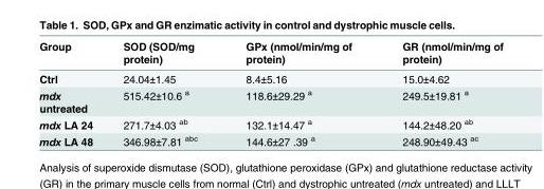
<table><thead><tr><td>Group</td><td>SOD (SOD/mg protein)</td><td>GPx (nmol/min/mg of protein)</td><td>GR (nmol/min/mg of protein)</td></tr></thead><tbody><tr><td>Ctrl</td><td>24.04±1.45</td><td>8.4±5.16</td><td>15.0±4.62</td></tr><tr><td>mdx untreated</td><td>515.42±10.6 <sup>a</sup></td><td>118.6±29.29 <sup>a</sup></td><td>249.5±19.81 <sup>a</sup></td></tr><tr><td>mdx LA 24</td><td>271.7±4.03 <sup>ab</sup></td><td>132.1±14.47 <sup>a</sup></td><td>144.2±48.20 <sup>ab</sup></td></tr><tr><td>mdx LA 48</td><td>346.98±7.81 <sup>abc</sup></td><td>144.6±27 .39 <sup>a</sup></td><td>248.90±49.43 <sup>ac</sup></td></tr></tbody></table>